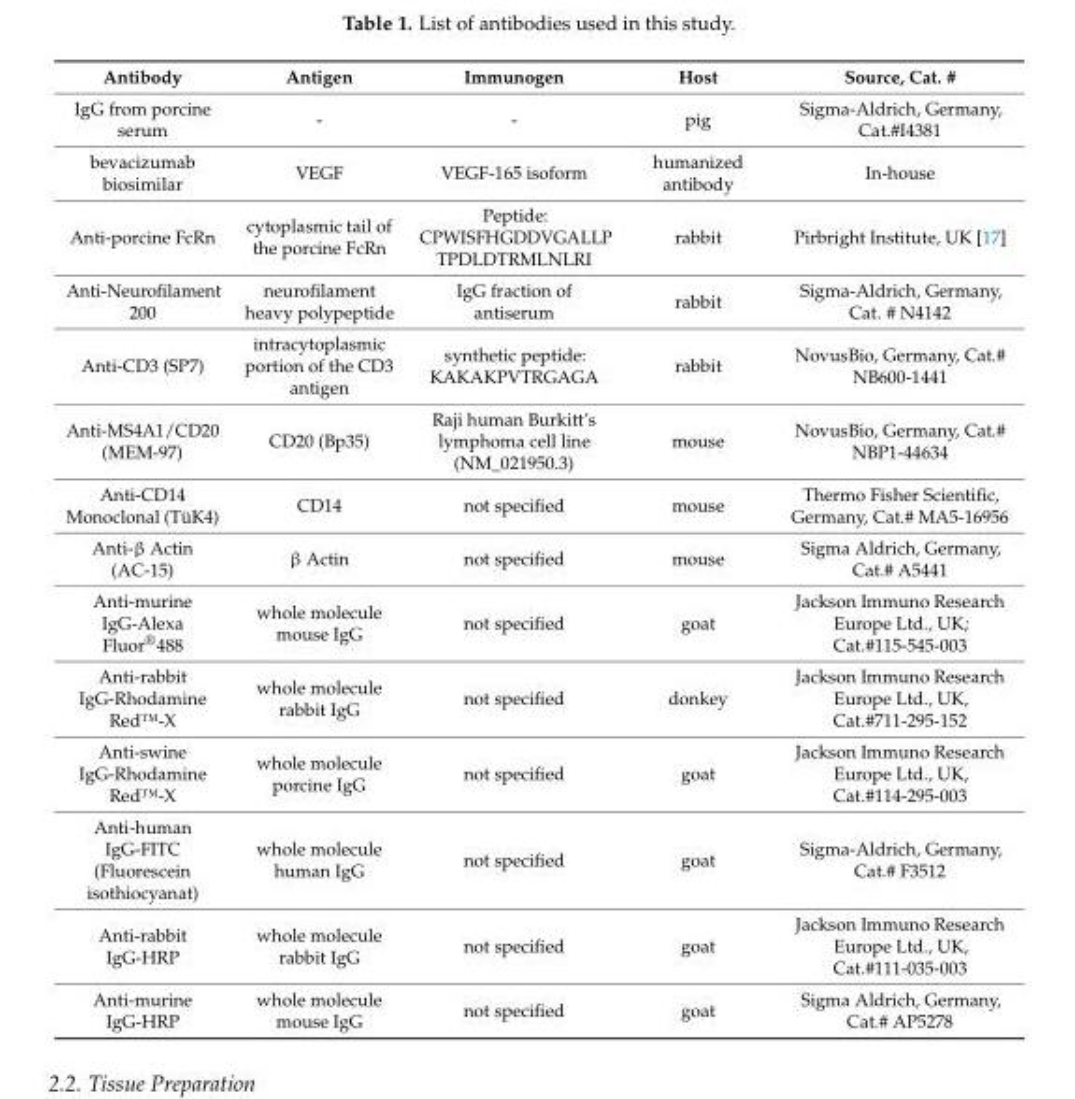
<table><thead><tr><td>Antibody</td><td>Antigen</td><td>Immunogen</td><td>Host</td><td>Source, Cat. #</td></tr></thead><tbody><tr><td>IgG from porcine serum</td><td>-</td><td>-</td><td>pig</td><td>Sigma-Aldrich, Germany, Cat.#I4381</td></tr><tr><td>bevacizumab biosimilar</td><td>VEGF</td><td>VEGF-165 isoform</td><td>humanized antibody</td><td>In-house</td></tr><tr><td>Anti-porcine FcRn</td><td>cytoplasmic tail of the porcine FcRn</td><td>Peptide: CPWISFHGDDVGALLP TPDLDTRMLNLRI</td><td>rabbit</td><td>Pirbright Institute, UK [17]</td></tr><tr><td>Anti-Neurofilament 200</td><td>neurofilament heavy polypeptide</td><td>IgG fraction of antiserum</td><td>rabbit</td><td>Sigma-Aldrich, Germany, Cat. # N4142</td></tr><tr><td>Anti-CD3 (SP7)</td><td>intracytoplasmic portion of the CD3 antigen</td><td>synthetic peptide: KAKAKPVTRGAGA</td><td>rabbit</td><td>NovusBio, Germany, Cat.# NB600-1441</td></tr><tr><td>Anti-MS4A1/CD20 (MEM-97)</td><td>CD20 (Bp35)</td><td>Raji human Burkitt’s lymphoma cell line (NM_021950.3)</td><td>mouse</td><td>NovusBio, Germany, Cat.# NBP1-44634</td></tr><tr><td>Anti-CD14 Monoclonal (TüK4)</td><td>CD14</td><td>not specified</td><td>mouse</td><td>Thermo Fisher Scientific, Germany, Cat.# MA5-16956</td></tr><tr><td>Anti-β Actin (AC-15)</td><td>β Actin</td><td>not specified</td><td>mouse</td><td>Sigma Aldrich, Germany, Cat.# A5441</td></tr><tr><td>Anti-murine IgG-Alexa Fluor<sup>®</sup>488</td><td>whole molecule mouse IgG</td><td>not specified</td><td>goat</td><td>Jackson Immuno Research Europe Ltd., UK; Cat.#115-545-003</td></tr><tr><td>Anti-rabbit IgG-Rhodamine Red™-X</td><td>whole molecule rabbit IgG</td><td>not specified</td><td>donkey</td><td>Jackson Immuno Research Europe Ltd., UK, Cat.#711-295-152</td></tr><tr><td>Anti-swine IgG-Rhodamine Red™-X</td><td>whole molecule porcine IgG</td><td>not specified</td><td>goat</td><td>Jackson Immuno Research Europe Ltd., UK, Cat.#114-295-003</td></tr><tr><td>Anti-human IgG-FITC (Fluorescein isothiocyanat)</td><td>whole molecule human IgG</td><td>not specified</td><td>goat</td><td>Sigma-Aldrich, Germany, Cat.# F3512</td></tr><tr><td>Anti-rabbit IgG-HRP</td><td>whole molecule rabbit IgG</td><td>not specified</td><td>goat</td><td>Jackson Immuno Research Europe Ltd., UK, Cat.#111-035-003</td></tr><tr><td>Anti-murine IgG-HRP</td><td>whole molecule mouse IgG</td><td>not specified</td><td>goat</td><td>Sigma Aldrich, Germany, Cat.# AP5278</td></tr></tbody></table>